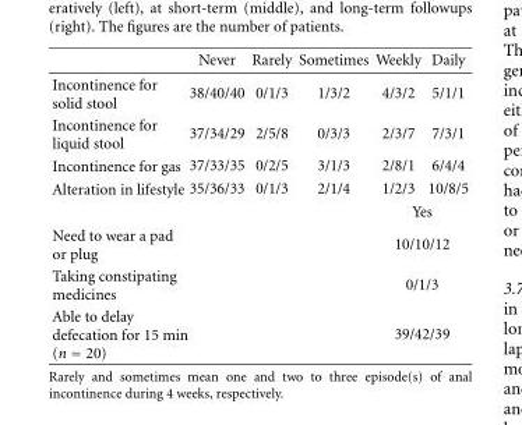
<table><thead><tr><td></td><td>Never</td><td>Rarely</td><td>Sometimes</td><td>Weekly</td><td>Daily</td></tr></thead><tbody><tr><td>Incontinence for solid stool</td><td>38/40/40</td><td>0/1/3</td><td>1/3/2</td><td>4/3/2</td><td>5/1/1</td></tr><tr><td>Incontinence for liquid stool</td><td>37/34/29</td><td>2/5/8</td><td>0/3/3</td><td>2/3/7</td><td>7/3/1</td></tr><tr><td>Incontinence for gas</td><td>37/33/35</td><td>0/2/5</td><td>3/1/3</td><td>2/8/1</td><td>6/4/4</td></tr><tr><td rowspan="2">Alteration in lifestyle</td><td>35/36/33</td><td>0/1/3</td><td>2/1/4</td><td>1/2/3</td><td>10/8/5</td></tr><tr><td></td><td></td><td></td><td colspan="2">Yes</td></tr><tr><td>Need to wear a pad or plug</td><td></td><td></td><td></td><td colspan="2">10/10/12</td></tr><tr><td>Taking constipating medicines</td><td></td><td></td><td></td><td colspan="2">0/1/3</td></tr><tr><td>Able to delay defecation for 15 min (n = 20)</td><td></td><td></td><td></td><td colspan="2">39/42/39</td></tr></tbody></table>